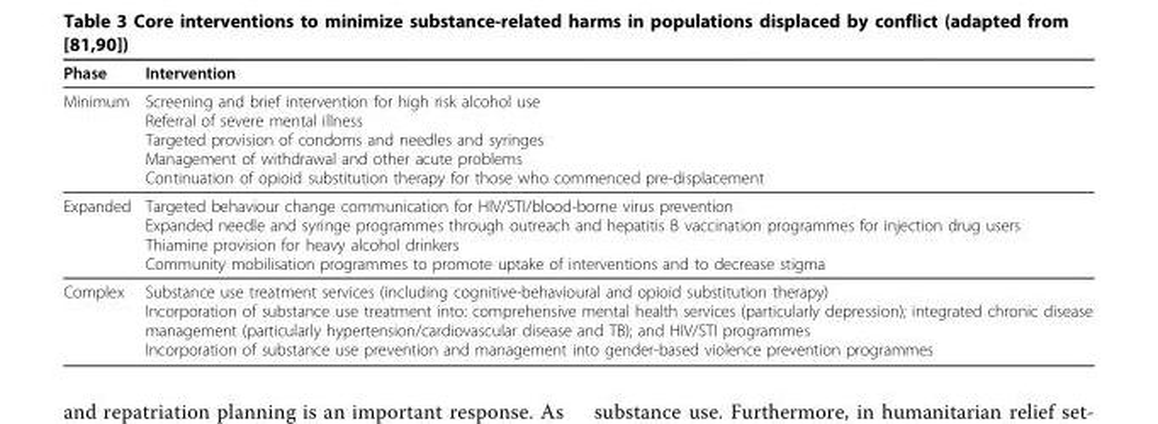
<table><thead><tr><td>Phase</td><td>Intervention</td></tr></thead><tbody><tr><td>Minimum</td><td>Screening and brief intervention for high risk alcohol use Referral of severe mental illness Targeted provision of condoms and needles and syringes Management of withdrawal and other acute problems Continuation of opioid substitution therapy for those who commenced pre-displacement</td></tr><tr><td>Expanded</td><td>Targeted behaviour change communication for HIV/STI/blood-borne virus prevention Expanded needle and syringe programmes through outreach and hepatitis B vaccination programmes for injection drug users Thiamine provision for heavy alcohol drinkers Community mobilisation programmes to promote uptake of interventions and to decrease stigma</td></tr><tr><td>Complex</td><td>Substance use treatment services (including cognitive-behavioural and opioid substitution therapy) Incorporation of substance use treatment into: comprehensive mental health services (particularly depression); integrated chronic disease management (particularly hypertension/cardiovascular disease and TB); and HIV/STI programmes Incorporation of substance use prevention and management into gender-based violence prevention programmes</td></tr></tbody></table>